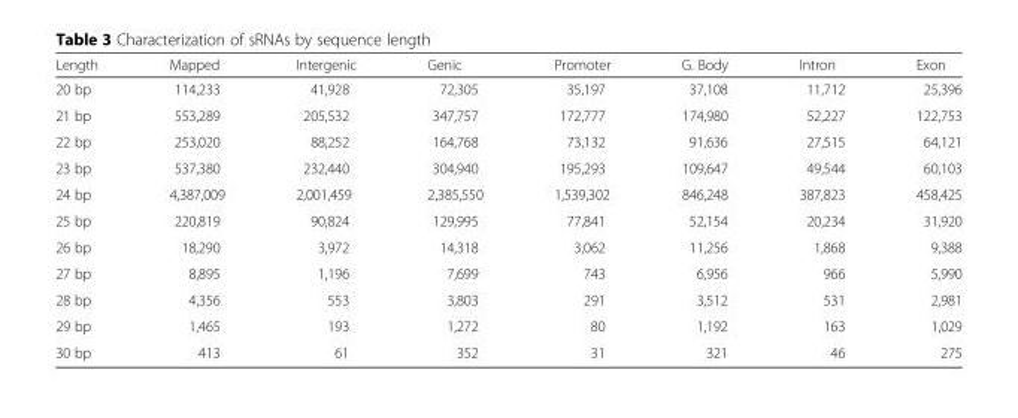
<table><thead><tr><td>Length</td><td>Mapped</td><td>Intergenic</td><td>Genic</td><td>Promoter</td><td>G. Body</td><td>Intron</td><td>Exon</td></tr></thead><tbody><tr><td>20 bp</td><td>114,233</td><td>41,928</td><td>72,305</td><td>35,197</td><td>37,108</td><td>11,712</td><td>25,396</td></tr><tr><td>21 bp</td><td>553,289</td><td>205,532</td><td>347,757</td><td>172,777</td><td>174,980</td><td>52,227</td><td>122,753</td></tr><tr><td>22 bp</td><td>253,020</td><td>88,252</td><td>164,768</td><td>73,132</td><td>91,636</td><td>27,515</td><td>64,121</td></tr><tr><td>23 bp</td><td>537,380</td><td>232,440</td><td>304,940</td><td>195,293</td><td>109,647</td><td>49,544</td><td>60,103</td></tr><tr><td>24 bp</td><td>4,387,009</td><td>2,001,459</td><td>2,385,550</td><td>1,539,302</td><td>846,248</td><td>387,823</td><td>458,425</td></tr><tr><td>25 bp</td><td>220,819</td><td>90,824</td><td>129,995</td><td>77,841</td><td>52,154</td><td>20,234</td><td>31,920</td></tr><tr><td>26 bp</td><td>18,290</td><td>3,972</td><td>14,318</td><td>3,062</td><td>11,256</td><td>1,868</td><td>9,388</td></tr><tr><td>27 bp</td><td>8,895</td><td>1,196</td><td>7,699</td><td>743</td><td>6,956</td><td>966</td><td>5,990</td></tr><tr><td>28 bp</td><td>4,356</td><td>553</td><td>3,803</td><td>291</td><td>3,512</td><td>531</td><td>2,981</td></tr><tr><td>29 bp</td><td>1,465</td><td>193</td><td>1,272</td><td>80</td><td>1,192</td><td>163</td><td>1,029</td></tr><tr><td>30 bp</td><td>413</td><td>61</td><td>352</td><td>31</td><td>321</td><td>46</td><td>275</td></tr></tbody></table>